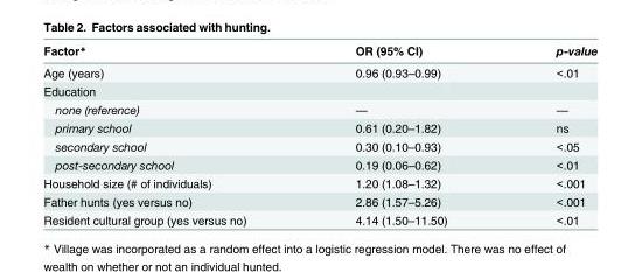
<table><thead><tr><td>Factor*</td><td>OR (95% CI)</td><td>p-value</td></tr></thead><tbody><tr><td>Age (years)</td><td>0.96 (0.93–0.99)</td><td>&lt;.01</td></tr><tr><td colspan="3">Education</td></tr><tr><td>none (reference)</td><td>—</td><td>—</td></tr><tr><td>primary school</td><td>0.61 (0.20–1.82)</td><td>ns</td></tr><tr><td>secondary school</td><td>0.30 (0.10–0.93)</td><td>&lt;.05</td></tr><tr><td>post-secondary school</td><td>0.19 (0.06–0.62)</td><td>&lt;.01</td></tr><tr><td>Household size (# of individuals)</td><td>1.20 (1.08–1.32)</td><td>&lt;.001</td></tr><tr><td>Father hunts (yes versus no)</td><td>2.86 (1.57–5.26)</td><td>&lt;.001</td></tr><tr><td>Resident cultural group (yes versus no)</td><td>4.14 (1.50–11.50)</td><td>&lt;.01</td></tr></tbody></table>